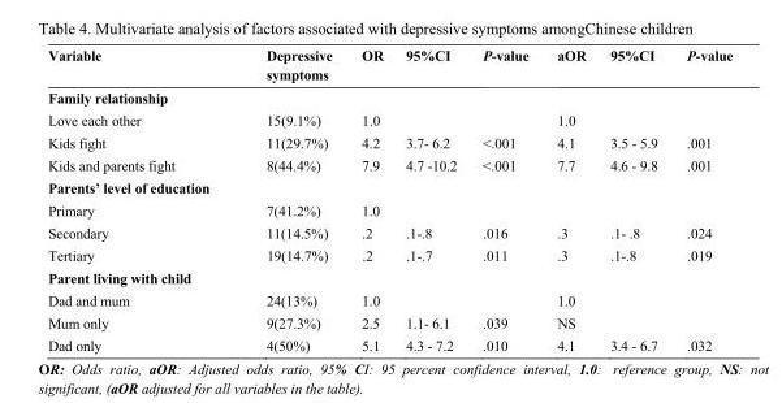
<table><thead><tr><td>Variable</td><td>Depressive symptoms</td><td>OR</td><td>95%CI</td><td>P-value</td><td>aOR</td><td>95%CI</td><td>P-value</td></tr></thead><tbody><tr><td colspan="8">Family relationship</td></tr><tr><td>Love each other</td><td>15(9.1%)</td><td>1.0</td><td></td><td></td><td>1.0</td><td></td><td></td></tr><tr><td>Kids fight</td><td>11(29.7%)</td><td>4.2</td><td>3.7- 6.2</td><td>&lt;.001</td><td>4.1</td><td>3.5 - 5.9</td><td>.001</td></tr><tr><td>Kids and parents fight</td><td>8(44.4%)</td><td>7.9</td><td>4.7 -10.2</td><td>&lt;.001</td><td>7.7</td><td>4.6 - 9.8</td><td>.001</td></tr><tr><td colspan="8">Parents’ level of education</td></tr><tr><td>Primary</td><td>7(41.2%)</td><td>1.0</td><td></td><td></td><td></td><td></td><td></td></tr><tr><td>Secondary</td><td>11(14.5%)</td><td>.2</td><td>.1-.8</td><td>.016</td><td>.3</td><td>.1- .8</td><td>.024</td></tr><tr><td>Tertiary</td><td>19(14.7%)</td><td>.2</td><td>.1-.7</td><td>.011</td><td>.3</td><td>.1-.8</td><td>.019</td></tr><tr><td colspan="8">Parent living with child</td></tr><tr><td>Dad and mum</td><td>24(13%)</td><td>1.0</td><td></td><td></td><td>1.0</td><td></td><td></td></tr><tr><td>Mum only</td><td>9(27.3%)</td><td>2.5</td><td>1.1- 6.1</td><td>.039</td><td>NS</td><td></td><td></td></tr><tr><td>Dad only</td><td>4(50%)</td><td>5.1</td><td>4.3 - 7.2</td><td>.010</td><td>4.1</td><td>3.4 - 6.7</td><td>.032</td></tr></tbody></table>